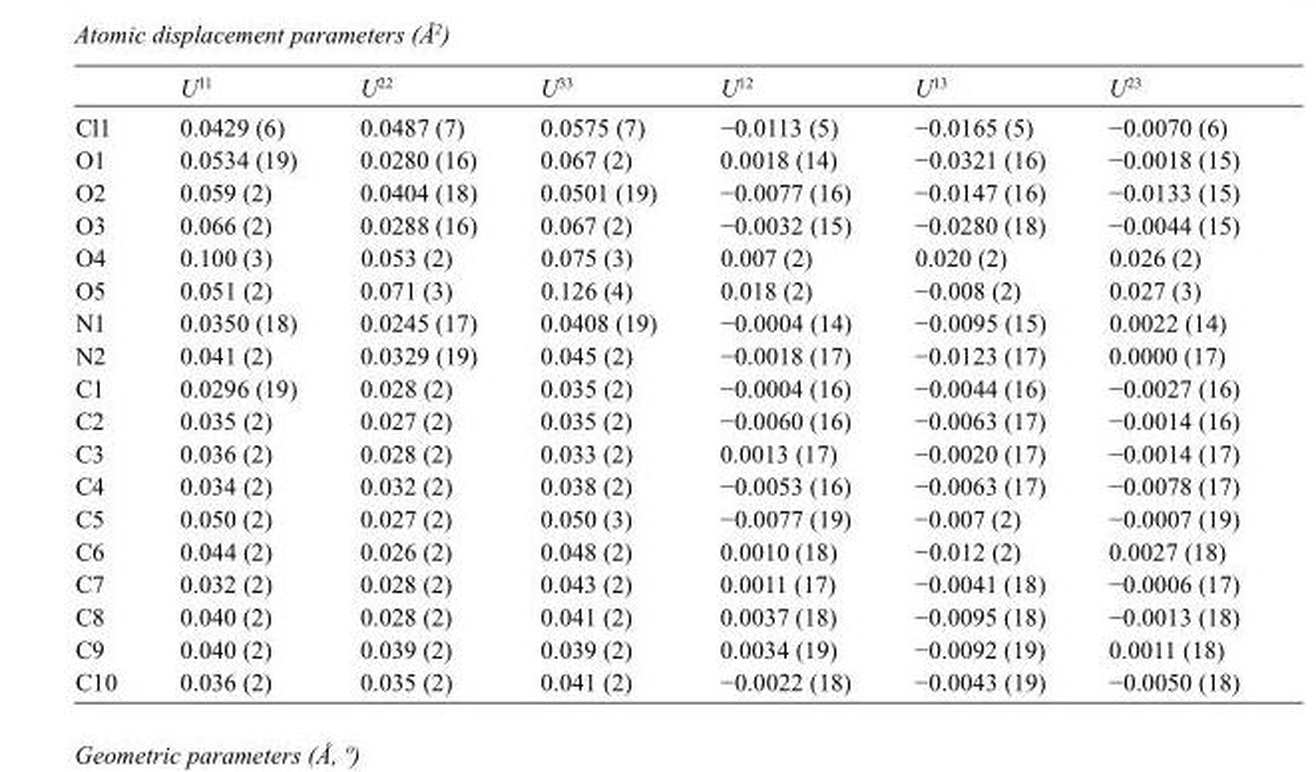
<table><thead><tr><td></td><td>U<sup>11</sup></td><td>U<sup>22</sup></td><td>U<sup>33</sup></td><td>U<sup>12</sup></td><td>U<sup>13</sup></td><td>U<sup>23</sup></td></tr></thead><tbody><tr><td>Cl1</td><td>0.0429 (6)</td><td>0.0487 (7)</td><td>0.0575 (7)</td><td>−0.0113 (5)</td><td>−0.0165 (5)</td><td>−0.0070 (6)</td></tr><tr><td>O1</td><td>0.0534 (19)</td><td>0.0280 (16)</td><td>0.067 (2)</td><td>0.0018 (14)</td><td>−0.0321 (16)</td><td>−0.0018 (15)</td></tr><tr><td>O2</td><td>0.059 (2)</td><td>0.0404 (18)</td><td>0.0501 (19)</td><td>−0.0077 (16)</td><td>−0.0147 (16)</td><td>−0.0133 (15)</td></tr><tr><td>O3</td><td>0.066 (2)</td><td>0.0288 (16)</td><td>0.067 (2)</td><td>−0.0032 (15)</td><td>−0.0280 (18)</td><td>−0.0044 (15)</td></tr><tr><td>O4</td><td>0.100 (3)</td><td>0.053 (2)</td><td>0.075 (3)</td><td>0.007 (2)</td><td>0.020 (2)</td><td>0.026 (2)</td></tr><tr><td>O5</td><td>0.051 (2)</td><td>0.071 (3)</td><td>0.126 (4)</td><td>0.018 (2)</td><td>−0.008 (2)</td><td>0.027 (3)</td></tr><tr><td>N1</td><td>0.0350 (18)</td><td>0.0245 (17)</td><td>0.0408 (19)</td><td>−0.0004 (14)</td><td>−0.0095 (15)</td><td>0.0022 (14)</td></tr><tr><td>N2</td><td>0.041 (2)</td><td>0.0329 (19)</td><td>0.045 (2)</td><td>−0.0018 (17)</td><td>−0.0123 (17)</td><td>0.0000 (17)</td></tr><tr><td>C1</td><td>0.0296 (19)</td><td>0.028 (2)</td><td>0.035 (2)</td><td>−0.0004 (16)</td><td>−0.0044 (16)</td><td>−0.0027 (16)</td></tr><tr><td>C2</td><td>0.035 (2)</td><td>0.027 (2)</td><td>0.035 (2)</td><td>−0.0060 (16)</td><td>−0.0063 (17)</td><td>−0.0014 (16)</td></tr><tr><td>C3</td><td>0.036 (2)</td><td>0.028 (2)</td><td>0.033 (2)</td><td>0.0013 (17)</td><td>−0.0020 (17)</td><td>−0.0014 (17)</td></tr><tr><td>C4</td><td>0.034 (2)</td><td>0.032 (2)</td><td>0.038 (2)</td><td>−0.0053 (16)</td><td>−0.0063 (17)</td><td>−0.0078 (17)</td></tr><tr><td>C5</td><td>0.050 (2)</td><td>0.027 (2)</td><td>0.050 (3)</td><td>−0.0077 (19)</td><td>−0.007 (2)</td><td>−0.0007 (19)</td></tr><tr><td>C6</td><td>0.044 (2)</td><td>0.026 (2)</td><td>0.048 (2)</td><td>0.0010 (18)</td><td>−0.012 (2)</td><td>0.0027 (18)</td></tr><tr><td>C7</td><td>0.032 (2)</td><td>0.028 (2)</td><td>0.043 (2)</td><td>0.0011 (17)</td><td>−0.0041 (18)</td><td>−0.0006 (17)</td></tr><tr><td>C8</td><td>0.040 (2)</td><td>0.028 (2)</td><td>0.041 (2)</td><td>0.0037 (18)</td><td>−0.0095 (18)</td><td>−0.0013 (18)</td></tr><tr><td>C9</td><td>0.040 (2)</td><td>0.039 (2)</td><td>0.039 (2)</td><td>0.0034 (19)</td><td>−0.0092 (19)</td><td>0.0011 (18)</td></tr><tr><td>C10</td><td>0.036 (2)</td><td>0.035 (2)</td><td>0.041 (2)</td><td>−0.0022 (18)</td><td>−0.0043 (19)</td><td>−0.0050 (18)</td></tr></tbody></table>